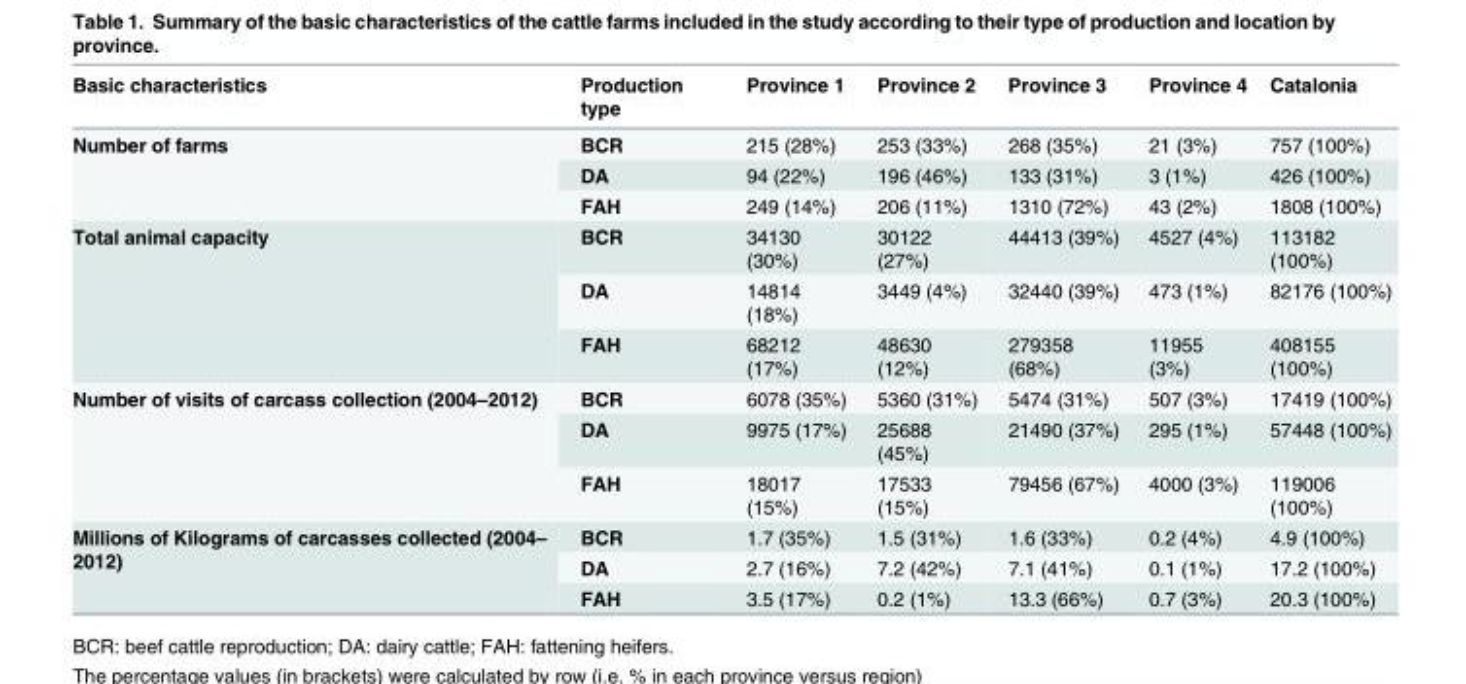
<table><thead><tr><td>Basic characteristics</td><td>Production type</td><td>Province 1</td><td>Province 2</td><td>Province 3</td><td>Province 4</td><td>Catalonia</td></tr></thead><tbody><tr><td rowspan="3">Number of farms</td><td>BCR</td><td>215 (28%)</td><td>253 (33%)</td><td>268 (35%)</td><td>21 (3%)</td><td>757 (100%)</td></tr><tr><td>DA</td><td>94 (22%)</td><td>196 (46%)</td><td>133 (31%)</td><td>3 (1%)</td><td>426 (100%)</td></tr><tr><td>FAH</td><td>249 (14%)</td><td>206 (11%)</td><td>1310 (72%)</td><td>43 (2%)</td><td>1808 (100%)</td></tr><tr><td rowspan="3">Total animal capacity</td><td>BCR</td><td>34130 (30%)</td><td>30122 (27%)</td><td>44413 (39%)</td><td>4527 (4%)</td><td>113182 (100%)</td></tr><tr><td>DA</td><td>14814 (18%)</td><td>3449 (4%)</td><td>32440 (39%)</td><td>473 (1%)</td><td>82176 (100%)</td></tr><tr><td>FAH</td><td>68212 (17%)</td><td>48630 (12%)</td><td>279358 (68%)</td><td>11955 (3%)</td><td>408155 (100%)</td></tr><tr><td rowspan="3">Number of visits of carcass collection (2004–2012)</td><td>BCR</td><td>6078 (35%)</td><td>5360 (31%)</td><td>5474 (31%)</td><td>507 (3%)</td><td>17419 (100%)</td></tr><tr><td>DA</td><td>9975 (17%)</td><td>25688 (45%)</td><td>21490 (37%)</td><td>295 (1%)</td><td>57448 (100%)</td></tr><tr><td>FAH</td><td>18017 (15%)</td><td>17533 (15%)</td><td>79456 (67%)</td><td>4000 (3%)</td><td>119006 (100%)</td></tr><tr><td rowspan="3">Millions of Kilograms of carcasses collected (2004– 2012)</td><td>BCR</td><td>1.7 (35%)</td><td>1.5 (31%)</td><td>1.6 (33%)</td><td>0.2 (4%)</td><td>4.9 (100%)</td></tr><tr><td>DA</td><td>2.7 (16%)</td><td>7.2 (42%)</td><td>7.1 (41%)</td><td>0.1 (1%)</td><td>17.2 (100%)</td></tr><tr><td>FAH</td><td>3.5 (17%)</td><td>0.2 (1%)</td><td>13.3 (66%)</td><td>0.7 (3%)</td><td>20.3 (100%)</td></tr></tbody></table>